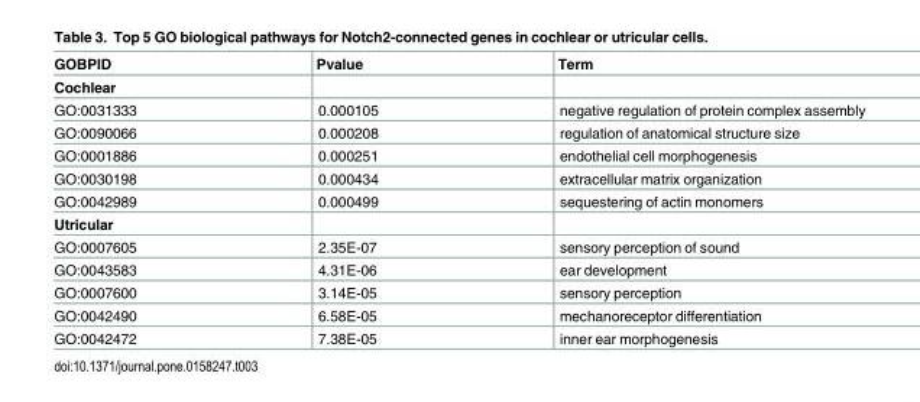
<table><thead><tr><td>GOBPID</td><td>Pvalue</td><td>Term</td></tr></thead><tbody><tr><td colspan="3">Cochlear</td></tr><tr><td>GO:0031333</td><td>0.000105</td><td>negative regulation of protein complex assembly</td></tr><tr><td>GO:0090066</td><td>0.000208</td><td>regulation of anatomical structure size</td></tr><tr><td>GO:0001886</td><td>0.000251</td><td>endothelial cell morphogenesis</td></tr><tr><td>GO:0030198</td><td>0.000434</td><td>extracellular matrix organization</td></tr><tr><td>GO:0042989</td><td>0.000499</td><td>sequestering of actin monomers</td></tr><tr><td colspan="3">Utricular</td></tr><tr><td>GO:0007605</td><td>2.35E-07</td><td>sensory perception of sound</td></tr><tr><td>GO:0043583</td><td>4.31E-06</td><td>ear development</td></tr><tr><td>GO:0007600</td><td>3.14E-05</td><td>sensory perception</td></tr><tr><td>GO:0042490</td><td>6.58E-05</td><td>mechanoreceptor differentiation</td></tr><tr><td>GO:0042472</td><td>7.38E-05</td><td>inner ear morphogenesis</td></tr></tbody></table>